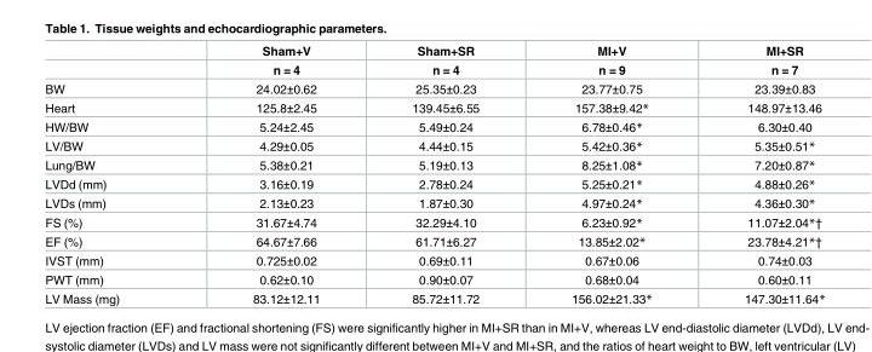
<table><thead><tr><td rowspan="2"></td><td rowspan="2">Sham+V n = 4</td><td rowspan="2">Sham+SR n = 4</td><td rowspan="2">MI+V n = 9</td><td rowspan="2">MI+SR n = 7</td></tr><tr></tr></thead><tbody><tr><td>BW</td><td>24.02±0.62</td><td>25.35±0.23</td><td>23.77±0.75</td><td>23.39±0.83</td></tr><tr><td>Heart</td><td>125.8±2.45</td><td>139.45±6.55</td><td>157.38±9.42*</td><td>148.97±13.46</td></tr><tr><td>HW/BW</td><td>5.24±2.45</td><td>5.49±0.24</td><td>6.78±0.46*</td><td>6.30±0.40</td></tr><tr><td>LV/BW</td><td>4.29±0.05</td><td>4.44±0.15</td><td>5.42±0.36*</td><td>5.35±0.51*</td></tr><tr><td>Lung/BW</td><td>5.38±0.21</td><td>5.19±0.13</td><td>8.25±1.08*</td><td>7.20±0.87*</td></tr><tr><td>LVDd (mm)</td><td>3.16±0.19</td><td>2.78±0.24</td><td>5.25±0.21*</td><td>4.88±0.26*</td></tr><tr><td>LVDs (mm)</td><td>2.13±0.23</td><td>1.87±0.30</td><td>4.97±0.24*</td><td>4.36±0.30*</td></tr><tr><td>FS (%)</td><td>31.67±4.74</td><td>32.29±4.10</td><td>6.23±0.92*</td><td>11.07±2.04*†</td></tr><tr><td>EF (%)</td><td>64.67±7.66</td><td>61.71±6.27</td><td>13.85±2.02*</td><td>23.78±4.21*†</td></tr><tr><td>IVST (mm)</td><td>0.725±0.02</td><td>0.69±0.11</td><td>0.67±0.06</td><td>0.74±0.03</td></tr><tr><td>PWT (mm)</td><td>0.62±0.10</td><td>0.90±0.07</td><td>0.68±0.04</td><td>0.60±0.11</td></tr><tr><td>LV Mass (mg)</td><td>83.12±12.11</td><td>85.72±11.72</td><td>156.02±21.33*</td><td>147.30±11.64*</td></tr></tbody></table>